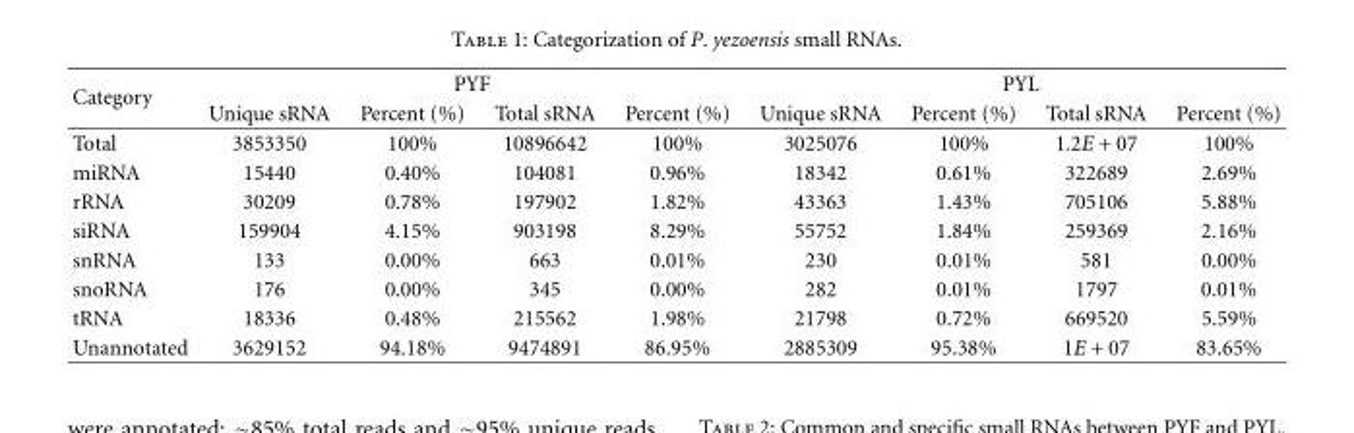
<table><thead><tr><td rowspan="2">Category</td><td colspan="4">PYF</td><td colspan="4">PYL</td></tr><tr><td>Unique sRNA</td><td>Percent (%)</td><td>Total sRNA</td><td>Percent (%)</td><td>Unique sRNA</td><td>Percent (%)</td><td>Total sRNA</td><td>Percent (%)</td></tr></thead><tbody><tr><td>Total</td><td>3853350</td><td>100%</td><td>10896642</td><td>100%</td><td>3025076</td><td>100%</td><td>1.2E + 07</td><td>100%</td></tr><tr><td>miRNA</td><td>15440</td><td>0.40%</td><td>104081</td><td>0.96%</td><td>18342</td><td>0.61%</td><td>322689</td><td>2.69%</td></tr><tr><td>rRNA</td><td>30209</td><td>0.78%</td><td>197902</td><td>1.82%</td><td>43363</td><td>1.43%</td><td>705106</td><td>5.88%</td></tr><tr><td>siRNA</td><td>159904</td><td>4.15%</td><td>903198</td><td>8.29%</td><td>55752</td><td>1.84%</td><td>259369</td><td>2.16%</td></tr><tr><td>snRNA</td><td>133</td><td>0.00%</td><td>663</td><td>0.01%</td><td>230</td><td>0.01%</td><td>581</td><td>0.00%</td></tr><tr><td>snoRNA</td><td>176</td><td>0.00%</td><td>345</td><td>0.00%</td><td>282</td><td>0.01%</td><td>1797</td><td>0.01%</td></tr><tr><td>tRNA</td><td>18336</td><td>0.48%</td><td>215562</td><td>1.98%</td><td>21798</td><td>0.72%</td><td>669520</td><td>5.59%</td></tr><tr><td>Unannotated</td><td>3629152</td><td>94.18%</td><td>9474891</td><td>86.95%</td><td>2885309</td><td>95.38%</td><td>1E + 07</td><td>83.65%</td></tr></tbody></table>